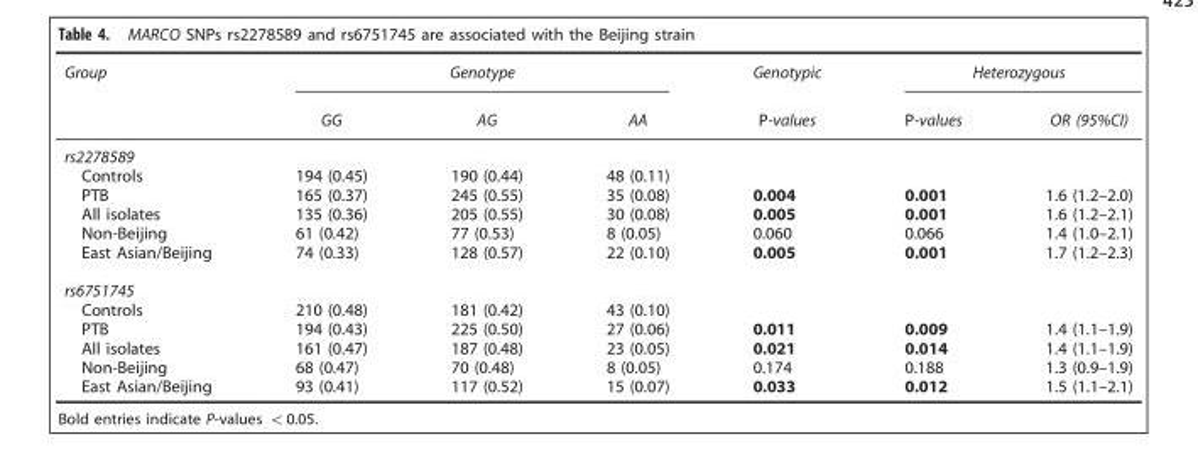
<table><thead><tr><td rowspan="2">Group</td><td colspan="3">Genotype</td><td rowspan="2">Genotypic P-values</td><td colspan="2">Heterozygous</td></tr><tr><td>GG</td><td>AG</td><td>AA</td><td>P-values</td><td>OR (95%CI)</td></tr></thead><tbody><tr><td colspan="7">rs2278589</td></tr><tr><td>Controls</td><td>194 (0.45)</td><td>190 (0.44)</td><td>48 (0.11)</td><td></td><td></td><td></td></tr><tr><td>PTB</td><td>165 (0.37)</td><td>245 (0.55)</td><td>35 (0.08)</td><td>0.004</td><td>0.001</td><td>1.6 (1.2–2.0)</td></tr><tr><td>All isolates</td><td>135 (0.36)</td><td>205 (0.55)</td><td>30 (0.08)</td><td>0.005</td><td>0.001</td><td>1.6 (1.2–2.1)</td></tr><tr><td>Non-Beijing</td><td>61 (0.42)</td><td>77 (0.53)</td><td>8 (0.05)</td><td>0.060</td><td>0.066</td><td>1.4 (1.0–2.1)</td></tr><tr><td>East Asian/Beijing</td><td>74 (0.33)</td><td>128 (0.57)</td><td>22 (0.10)</td><td>0.005</td><td>0.001</td><td>1.7 (1.2–2.3)</td></tr><tr><td colspan="7">rs6751745</td></tr><tr><td>Controls</td><td>210 (0.48)</td><td>181 (0.42)</td><td>43 (0.10)</td><td></td><td></td><td></td></tr><tr><td>PTB</td><td>194 (0.43)</td><td>225 (0.50)</td><td>27 (0.06)</td><td>0.011</td><td>0.009</td><td>1.4 (1.1–1.9)</td></tr><tr><td>All isolates</td><td>161 (0.47)</td><td>187 (0.48)</td><td>23 (0.05)</td><td>0.021</td><td>0.014</td><td>1.4 (1.1–1.9)</td></tr><tr><td>Non-Beijing</td><td>68 (0.47)</td><td>70 (0.48)</td><td>8 (0.05)</td><td>0.174</td><td>0.188</td><td>1.3 (0.9–1.9)</td></tr><tr><td>East Asian/Beijing</td><td>93 (0.41)</td><td>117 (0.52)</td><td>15 (0.07)</td><td>0.033</td><td>0.012</td><td>1.5 (1.1–2.1)</td></tr></tbody></table>